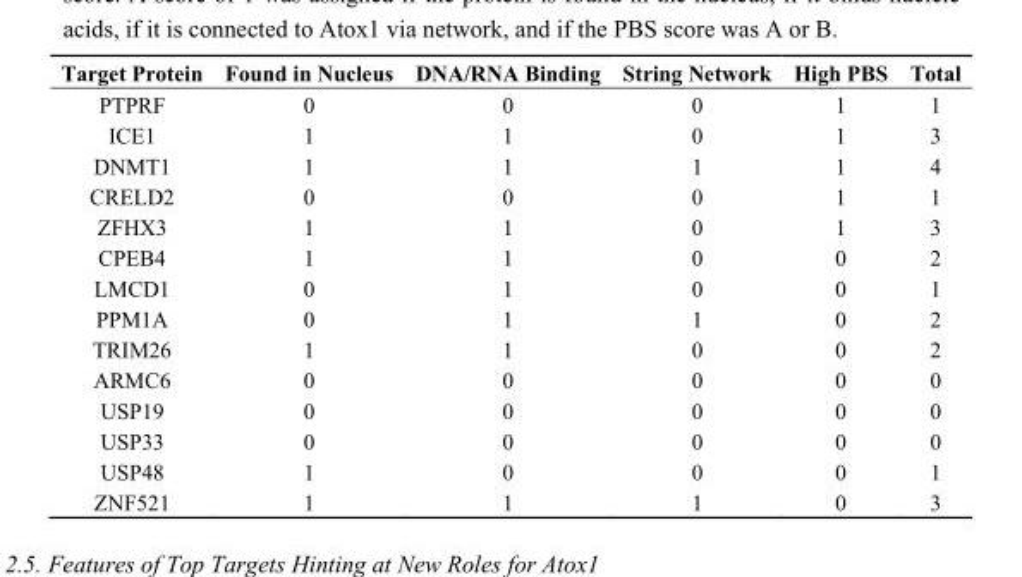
<table><thead><tr><td>Target Protein</td><td>Found in Nucleus</td><td>DNA/RNA Binding</td><td>String Network</td><td>High PBS</td><td>Total</td></tr></thead><tbody><tr><td>PTPRF</td><td>0</td><td>0</td><td>0</td><td>1</td><td>1</td></tr><tr><td>ICE1</td><td>1</td><td>1</td><td>0</td><td>1</td><td>3</td></tr><tr><td>DNMT1</td><td>1</td><td>1</td><td>1</td><td>1</td><td>4</td></tr><tr><td>CRELD2</td><td>0</td><td>0</td><td>0</td><td>1</td><td>1</td></tr><tr><td>ZFHX3</td><td>1</td><td>1</td><td>0</td><td>1</td><td>3</td></tr><tr><td>CPEB4</td><td>1</td><td>1</td><td>0</td><td>0</td><td>2</td></tr><tr><td>LMCD1</td><td>0</td><td>1</td><td>0</td><td>0</td><td>1</td></tr><tr><td>PPM1A</td><td>0</td><td>1</td><td>1</td><td>0</td><td>2</td></tr><tr><td>TRIM26</td><td>1</td><td>1</td><td>0</td><td>0</td><td>2</td></tr><tr><td>ARMC6</td><td>0</td><td>0</td><td>0</td><td>0</td><td>0</td></tr><tr><td>USP19</td><td>0</td><td>0</td><td>0</td><td>0</td><td>0</td></tr><tr><td>USP33</td><td>0</td><td>0</td><td>0</td><td>0</td><td>0</td></tr><tr><td>USP48</td><td>1</td><td>0</td><td>0</td><td>0</td><td>1</td></tr><tr><td>ZNF521</td><td>1</td><td>1</td><td>1</td><td>0</td><td>3</td></tr></tbody></table>